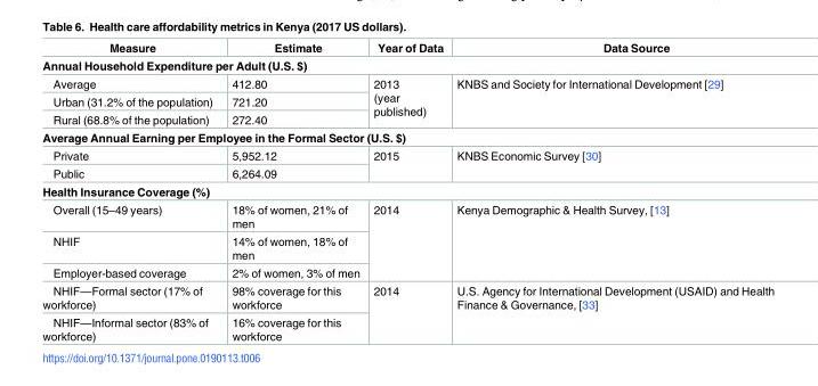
<table><thead><tr><td>Measure</td><td>Estimate</td><td>Year of Data</td><td>Data Source</td></tr></thead><tbody><tr><td colspan="4">Annual Household Expenditure per Adult (U.S. $)</td></tr><tr><td>Average</td><td>412.80</td><td rowspan="3">2013 (year published)</td><td rowspan="3">KNBS and Society for International Development [29]</td></tr><tr><td>Urban (31.2% of the population)</td><td>721.20</td></tr><tr><td>Rural (68.8% of the population)</td><td>272.40</td></tr><tr><td colspan="4">Average Annual Earning per Employee in the Formal Sector (U.S. $)</td></tr><tr><td>Private</td><td>5,952.12</td><td rowspan="2">2015</td><td rowspan="2">KNBS Economic Survey [30]</td></tr><tr><td>Public</td><td>6,264.09</td></tr><tr><td colspan="4">Health Insurance Coverage (%)</td></tr><tr><td>Overall (15–49 years)</td><td>18% of women, 21% of men</td><td rowspan="3">2014</td><td rowspan="3">Kenya Demographic &amp; Health Survey, [13]</td></tr><tr><td>NHIF</td><td>14% of women, 18% of men</td></tr><tr><td>Employer-based coverage</td><td>2% of women, 3% of men</td></tr><tr><td>NHIF—Formal sector (17% of workforce)</td><td>98% coverage for this workforce</td><td rowspan="2">2014</td><td rowspan="2">U.S. Agency for International Development (USAID) and Health Finance &amp; Governance, [33]</td></tr><tr><td>NHIF—Informal sector (83% of workforce)</td><td>16% coverage for this workforce</td></tr></tbody></table>